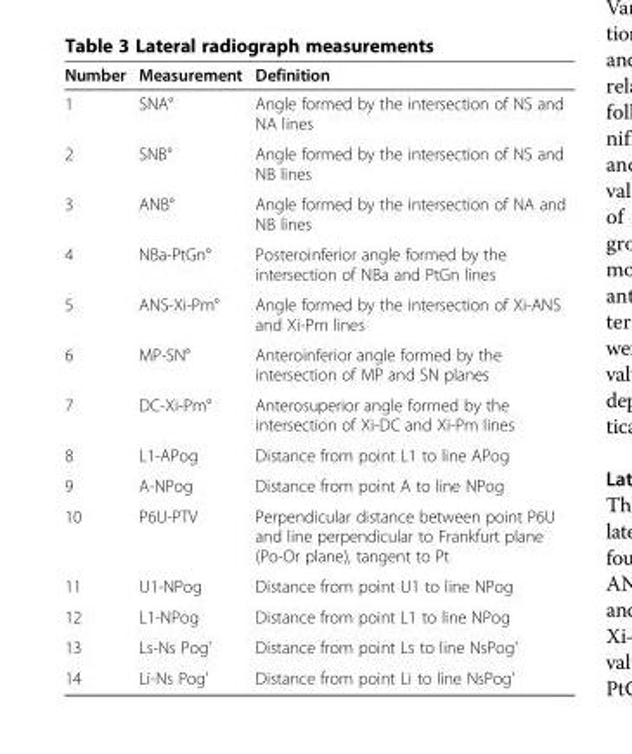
<table><thead><tr><td>Number</td><td>Measurement</td><td>Definition</td></tr></thead><tbody><tr><td>1</td><td>SNA°</td><td>Angle formed by the intersection of NS and NA lines</td></tr><tr><td>2</td><td>SNB°</td><td>Angle formed by the intersection of NS and NB lines</td></tr><tr><td>3</td><td>ANB°</td><td>Angle formed by the intersection of NA and NB lines</td></tr><tr><td>4</td><td>NBa-PtGn°</td><td>Posteroinferior angle formed by the intersection of NBa and PtGn lines</td></tr><tr><td>5</td><td>ANS-Xi-Pm°</td><td>Angle formed by the intersection of Xi-ANS and Xi-Pm lines</td></tr><tr><td>6</td><td>MP-SN°</td><td>Anteroinferior angle formed by the intersection of MP and SN planes</td></tr><tr><td>7</td><td>DC-Xi-Pm°</td><td>Anterosuperior angle formed by the intersection of Xi-DC and Xi-Pm lines</td></tr><tr><td>8</td><td>L1-APog</td><td>Distance from point L1 to line APog</td></tr><tr><td>9</td><td>A-NPog</td><td>Distance from point A to line NPog</td></tr><tr><td>10</td><td>P6U-PTV</td><td>Perpendicular distance between point P6U and line perpendicular to Frankfurt plane (Po-Or plane), tangent to Pt</td></tr><tr><td>11</td><td>U1-NPog</td><td>Distance from point U1 to line NPog</td></tr><tr><td>12</td><td>L1-NPog</td><td>Distance from point L1 to line NPog</td></tr><tr><td>13</td><td>Ls-Ns Pog&#x27;</td><td>Distance from point Ls to line NsPog&#x27;</td></tr><tr><td>14</td><td>Li-Ns Pog&#x27;</td><td>Distance from point Li to line NsPog&#x27;</td></tr></tbody></table>